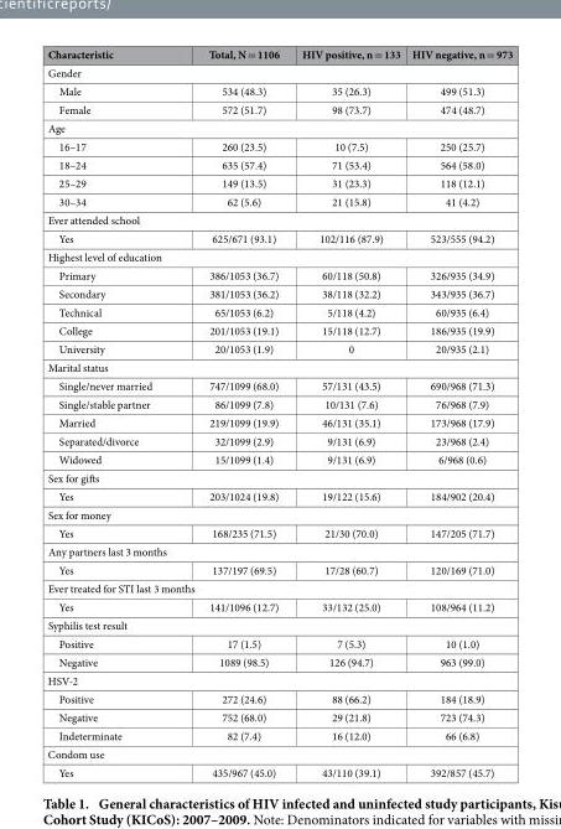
<table><thead><tr><td>Characteristic</td><td>Total, N = 1106</td><td>HIV positive, n = 133</td><td>HIV negative, n = 973</td></tr></thead><tbody><tr><td colspan="4">Gender</td></tr><tr><td>Male</td><td>534 (48.3)</td><td>35 (26.3)</td><td>499 (51.3)</td></tr><tr><td>Female</td><td>572 (51.7)</td><td>98 (73.7)</td><td>474 (48.7)</td></tr><tr><td colspan="4">Age</td></tr><tr><td>16–17</td><td>260 (23.5)</td><td>10 (7.5)</td><td>250 (25.7)</td></tr><tr><td>18–24</td><td>635 (57.4)</td><td>71 (53.4)</td><td>564 (58.0)</td></tr><tr><td>25–29</td><td>149 (13.5)</td><td>31 (23.3)</td><td>118 (12.1)</td></tr><tr><td>30–34</td><td>62 (5.6)</td><td>21 (15.8)</td><td>41 (4.2)</td></tr><tr><td colspan="4">Ever attended school</td></tr><tr><td>Yes</td><td>625/671 (93.1)</td><td>102/116 (87.9)</td><td>523/555 (94.2)</td></tr><tr><td colspan="4">Highest level of education</td></tr><tr><td>Primary</td><td>386/1053 (36.7)</td><td>60/118 (50.8)</td><td>326/935 (34.9)</td></tr><tr><td>Secondary</td><td>381/1053 (36.2)</td><td>38/118 (32.2)</td><td>343/935 (36.7)</td></tr><tr><td>Technical</td><td>65/1053 (6.2)</td><td>5/118 (4.2)</td><td>60/935 (6.4)</td></tr><tr><td>College</td><td>201/1053 (19.1)</td><td>15/118 (12.7)</td><td>186/935 (19.9)</td></tr><tr><td>University</td><td>20/1053 (1.9)</td><td>0</td><td>20/935 (2.1)</td></tr><tr><td colspan="4">Marital status</td></tr><tr><td>Single/never married</td><td>747/1099 (68.0)</td><td>57/131 (43.5)</td><td>690/968 (71.3)</td></tr><tr><td>Single/stable partner</td><td>86/1099 (7.8)</td><td>10/131 (7.6)</td><td>76/968 (7.9)</td></tr><tr><td>Married</td><td>219/1099 (19.9)</td><td>46/131 (35.1)</td><td>173/968 (17.9)</td></tr><tr><td>Separated/divorce</td><td>32/1099 (2.9)</td><td>9/131 (6.9)</td><td>23/968 (2.4)</td></tr><tr><td>Widowed</td><td>15/1099 (1.4)</td><td>9/131 (6.9)</td><td>6/968 (0.6)</td></tr><tr><td colspan="4">Sex for gifts</td></tr><tr><td>Yes</td><td>203/1024 (19.8)</td><td>19/122 (15.6)</td><td>184/902 (20.4)</td></tr><tr><td colspan="4">Sex for money</td></tr><tr><td>Yes</td><td>168/235 (71.5)</td><td>21/30 (70.0)</td><td>147/205 (71.7)</td></tr><tr><td colspan="4">Any partners last 3 months</td></tr><tr><td>Yes</td><td>137/197 (69.5)</td><td>17/28 (60.7)</td><td>120/169 (71.0)</td></tr><tr><td colspan="4">Ever treated for STI last 3 months</td></tr><tr><td>Yes</td><td>141/1096 (12.7)</td><td>33/132 (25.0)</td><td>108/964 (11.2)</td></tr><tr><td colspan="4">Syphilis test result</td></tr><tr><td>Positive</td><td>17 (1.5)</td><td>7 (5.3)</td><td>10 (1.0)</td></tr><tr><td>Negative</td><td>1089 (98.5)</td><td>126 (94.7)</td><td>963 (99.0)</td></tr><tr><td colspan="4">HSV-2</td></tr><tr><td>Positive</td><td>272 (24.6)</td><td>88 (66.2)</td><td>184 (18.9)</td></tr><tr><td>Negative</td><td>752 (68.0)</td><td>29 (21.8)</td><td>723 (74.3)</td></tr><tr><td>Indeterminate</td><td>82 (7.4)</td><td>16 (12.0)</td><td>66 (6.8)</td></tr><tr><td colspan="4">Condom use</td></tr><tr><td>Yes</td><td>435/967 (45.0)</td><td>43/110 (39.1)</td><td>392/857 (45.7)</td></tr></tbody></table>